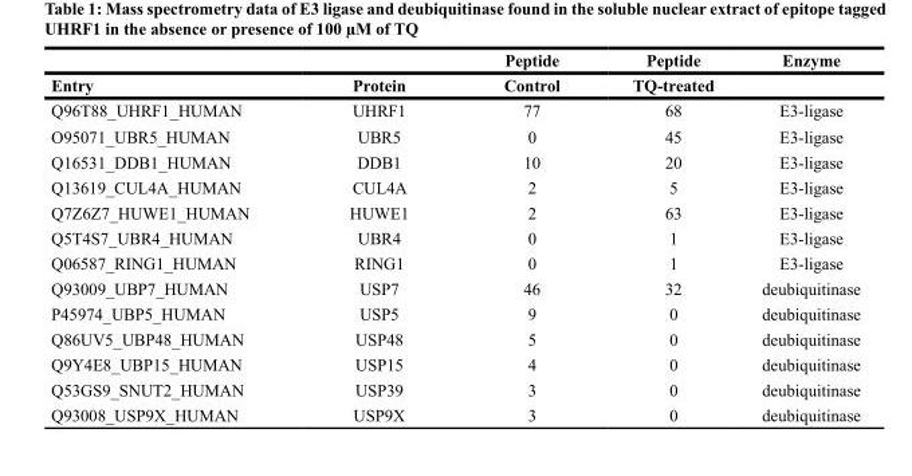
<table><thead><tr><td rowspan="2">Entry</td><td rowspan="2">Protein</td><td rowspan="2">Peptide Control</td><td rowspan="2">Peptide TQ-treated</td><td rowspan="2">Enzyme</td></tr><tr></tr></thead><tbody><tr><td>Q96T88_UHRF1_HUMAN</td><td>UHRF1</td><td>77</td><td>68</td><td>E3-ligase</td></tr><tr><td>O95071_UBR5_HUMAN</td><td>UBR5</td><td>0</td><td>45</td><td>E3-ligase</td></tr><tr><td>Q16531_DDB1_HUMAN</td><td>DDB1</td><td>10</td><td>20</td><td>E3-ligase</td></tr><tr><td>Q13619_CUL4A_HUMAN</td><td>CUL4A</td><td>2</td><td>5</td><td>E3-ligase</td></tr><tr><td>Q7Z6Z7_HUWE1_HUMAN</td><td>HUWE1</td><td>2</td><td>63</td><td>E3-ligase</td></tr><tr><td>Q5T4S7_UBR4_HUMAN</td><td>UBR4</td><td>0</td><td>1</td><td>E3-ligase</td></tr><tr><td>Q06587_RING1_HUMAN</td><td>RING1</td><td>0</td><td>1</td><td>E3-ligase</td></tr><tr><td>Q93009_UBP7_HUMAN</td><td>USP7</td><td>46</td><td>32</td><td>deubiquitinase</td></tr><tr><td>P45974_UBP5_HUMAN</td><td>USP5</td><td>9</td><td>0</td><td>deubiquitinase</td></tr><tr><td>Q86UV5_UBP48_HUMAN</td><td>USP48</td><td>5</td><td>0</td><td>deubiquitinase</td></tr><tr><td>Q9Y4E8_UBP15_HUMAN</td><td>USP15</td><td>4</td><td>0</td><td>deubiquitinase</td></tr><tr><td>Q53GS9_SNUT2_HUMAN</td><td>USP39</td><td>3</td><td>0</td><td>deubiquitinase</td></tr><tr><td>Q93008_USP9X_HUMAN</td><td>USP9X</td><td>3</td><td>0</td><td>deubiquitinase</td></tr></tbody></table>